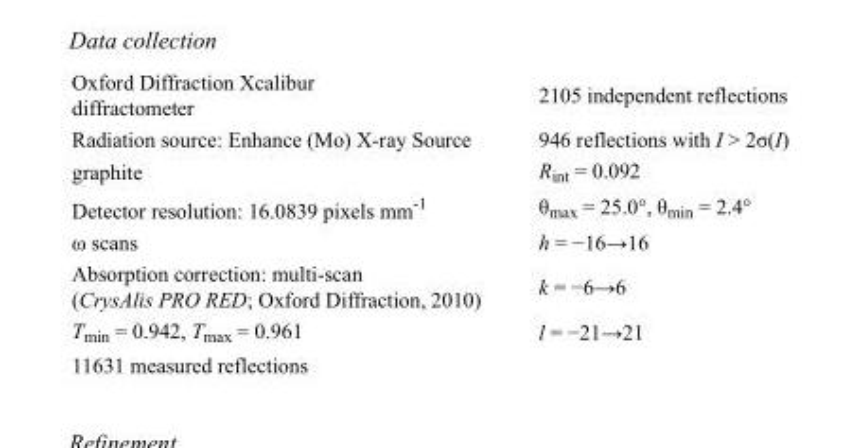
<table><tbody><tr><td>Oxford Diffraction Xcalibur diffractometer</td><td>2105 independent reflections</td></tr><tr><td>Radiation source: Enhance (Mo) X-ray Source</td><td>946 reflections with I &gt; 2σ(I)</td></tr><tr><td>graphite</td><td>R<sub>int</sub> = 0.092</td></tr><tr><td>Detector resolution: 16.0839 pixels mm<sup>-1</sup></td><td>θ<sub>max</sub> = 25.0°, θ<sub>min</sub> = 2.4°</td></tr><tr><td>ω scans</td><td>h = −16→16</td></tr><tr><td>Absorption correction: multi-scan (CrysAlis PRO RED; Oxford Diffraction, 2010)</td><td>k = −6→6</td></tr><tr><td>T<sub>min</sub> = 0.942, T<sub>max</sub> = 0.961</td><td>l = −21→21</td></tr><tr><td>11631 measured reflections</td><td></td></tr></tbody></table>